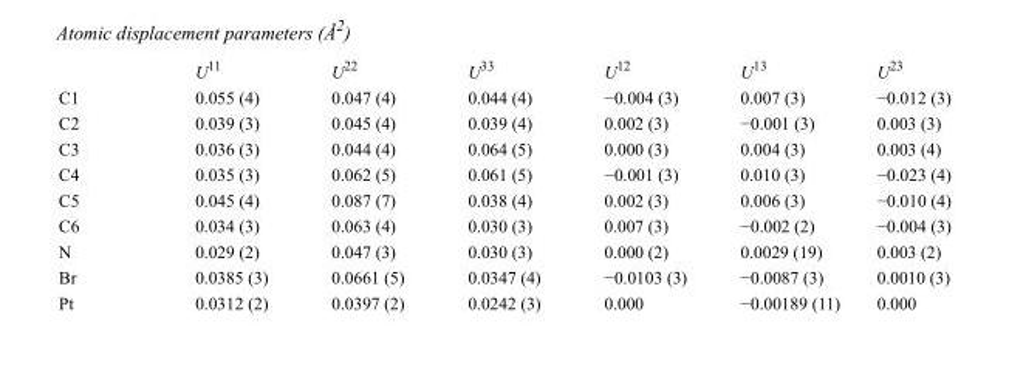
<table><thead><tr><td></td><td>U<sup>11</sup></td><td>U<sup>22</sup></td><td>U<sup>33</sup></td><td>U<sup>12</sup></td><td>U<sup>13</sup></td><td>U<sup>23</sup></td></tr></thead><tbody><tr><td>C1</td><td>0.055 (4)</td><td>0.047 (4)</td><td>0.044 (4)</td><td>−0.004 (3)</td><td>0.007 (3)</td><td>−0.012 (3)</td></tr><tr><td>C2</td><td>0.039 (3)</td><td>0.045 (4)</td><td>0.039 (4)</td><td>0.002 (3)</td><td>−0.001 (3)</td><td>0.003 (3)</td></tr><tr><td>C3</td><td>0.036 (3)</td><td>0.044 (4)</td><td>0.064 (5)</td><td>0.000 (3)</td><td>0.004 (3)</td><td>0.003 (4)</td></tr><tr><td>C4</td><td>0.035 (3)</td><td>0.062 (5)</td><td>0.061 (5)</td><td>−0.001 (3)</td><td>0.010 (3)</td><td>−0.023 (4)</td></tr><tr><td>C5</td><td>0.045 (4)</td><td>0.087 (7)</td><td>0.038 (4)</td><td>0.002 (3)</td><td>0.006 (3)</td><td>−0.010 (4)</td></tr><tr><td>C6</td><td>0.034 (3)</td><td>0.063 (4)</td><td>0.030 (3)</td><td>0.007 (3)</td><td>−0.002 (2)</td><td>−0.004 (3)</td></tr><tr><td>N</td><td>0.029 (2)</td><td>0.047 (3)</td><td>0.030 (3)</td><td>0.000 (2)</td><td>0.0029 (19)</td><td>0.003 (2)</td></tr><tr><td>Br</td><td>0.0385 (3)</td><td>0.0661 (5)</td><td>0.0347 (4)</td><td>−0.0103 (3)</td><td>−0.0087 (3)</td><td>0.0010 (3)</td></tr><tr><td>Pt</td><td>0.0312 (2)</td><td>0.0397 (2)</td><td>0.0242 (3)</td><td>0.000</td><td>−0.00189 (11)</td><td>0.000</td></tr></tbody></table>